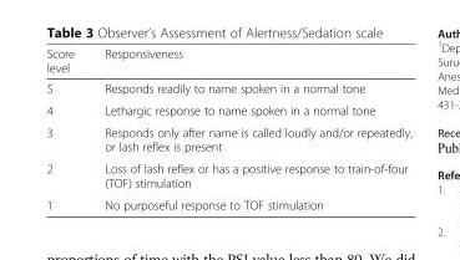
<table><thead><tr><td>Score level</td><td>Responsiveness</td></tr></thead><tbody><tr><td>5</td><td>Responds readily to name spoken in a normal tone</td></tr><tr><td>4</td><td>Lethargic response to name spoken in a normal tone</td></tr><tr><td>3</td><td>Responds only after name is called loudly and/or repeatedly, or lash reflex is present</td></tr><tr><td>2</td><td>Loss of lash reflex or has a positive response to train-of-four (TOF) stimulation</td></tr><tr><td>1</td><td>No purposeful response to TOF stimulation</td></tr></tbody></table>